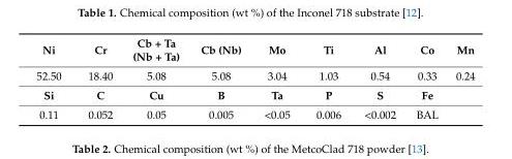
<table><thead><tr><td>Ni</td><td>Cr</td><td>Cb + Ta (Nb + Ta)</td><td>Cb (Nb)</td><td>Mo</td><td>Ti</td><td>Al</td><td>Co</td><td>Mn</td></tr></thead><tbody><tr><td>52.50</td><td>18.40</td><td>5.08</td><td>5.08</td><td>3.04</td><td>1.03</td><td>0.54</td><td>0.33</td><td>0.24</td></tr><tr><td>Si</td><td>C</td><td>Cu</td><td>B</td><td>Ta</td><td>P</td><td>S</td><td>Fe</td><td></td></tr><tr><td>0.11</td><td>0.052</td><td>0.05</td><td>0.005</td><td>&lt;0.05</td><td>0.006</td><td>&lt;0.002</td><td>BAL</td><td></td></tr></tbody></table>